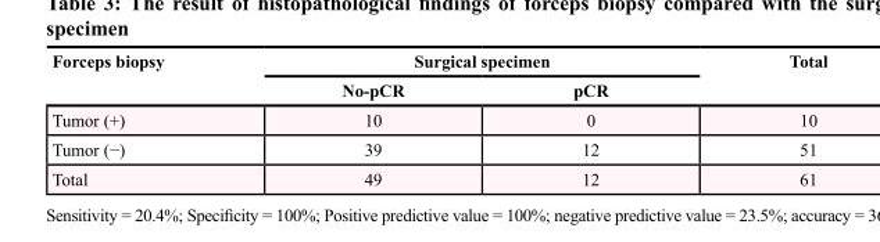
<table><thead><tr><td rowspan="2">Forceps biopsy</td><td colspan="2">Surgical specimen</td><td rowspan="2">Total</td></tr><tr><td>No-pCR</td><td>pCR</td></tr></thead><tbody><tr><td>Tumor (+)</td><td>10</td><td>0</td><td>10</td></tr><tr><td>Tumor (−)</td><td>39</td><td>12</td><td>51</td></tr><tr><td>Total</td><td>49</td><td>12</td><td>61</td></tr></tbody></table>